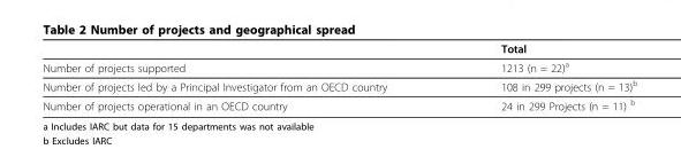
<table><thead><tr><td></td><td>Total</td></tr></thead><tbody><tr><td>Number of projects supported</td><td>1213 (n = 22)<sup>a</sup></td></tr><tr><td>Number of projects led by a Principal Investigator from an OECD country</td><td>108 in 299 projects (n = 13)<sup>b</sup></td></tr><tr><td>Number of projects operational in an OECD country</td><td>24 in 299 Projects (n = 11) <sup>b</sup></td></tr></tbody></table>